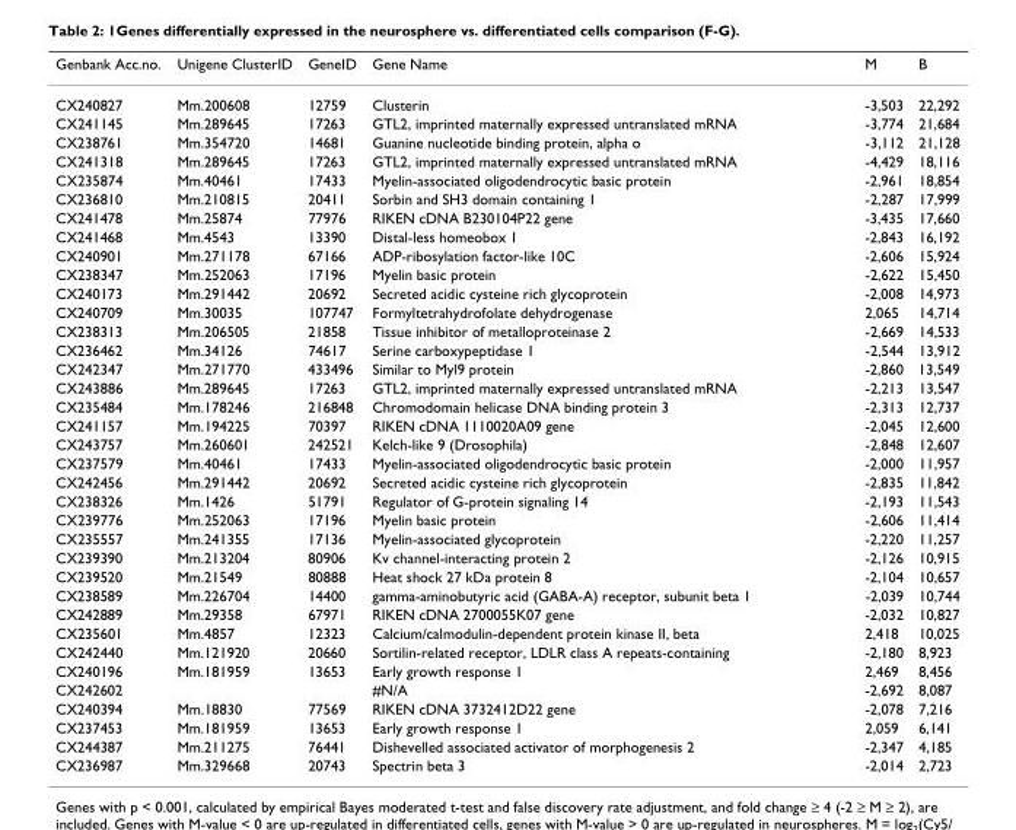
<table><thead><tr><td>Genbank Acc.no.</td><td>Unigene ClusterID</td><td>GeneID</td><td>Gene Name</td><td>M</td><td>B</td></tr></thead><tbody><tr><td>CX240827</td><td>Mm.200608</td><td>12759</td><td>Clusterin</td><td>-3,503</td><td>22,292</td></tr><tr><td>CX241145</td><td>Mm.289645</td><td>17263</td><td>GTL2, imprinted maternally expressed untranslated mRNA</td><td>-3,774</td><td>21,684</td></tr><tr><td>CX238761</td><td>Mm.354720</td><td>14681</td><td>Guanine nucleotide binding protein, alpha o</td><td>-3,112</td><td>21,128</td></tr><tr><td>CX241318</td><td>Mm.289645</td><td>17263</td><td>GTL2, imprinted maternally expressed untranslated mRNA</td><td>-4,429</td><td>18,116</td></tr><tr><td>CX235874</td><td>Mm.40461</td><td>17433</td><td>Myelin-associated oligodendrocytic basic protein</td><td>-2,961</td><td>18,854</td></tr><tr><td>CX236810</td><td>Mm.210815</td><td>20411</td><td>Sorbin and SH3 domain containing 1</td><td>-2,287</td><td>17,999</td></tr><tr><td>CX241478</td><td>Mm.25874</td><td>77976</td><td>RIKEN cDNA B230104P22 gene</td><td>-3,435</td><td>17,660</td></tr><tr><td>CX241468</td><td>Mm.4543</td><td>13390</td><td>Distal-less homeobox 1</td><td>-2,843</td><td>16,192</td></tr><tr><td>CX240901</td><td>Mm.271178</td><td>67166</td><td>ADP-ribosylation factor-like 10C</td><td>-2,606</td><td>15,924</td></tr><tr><td>CX238347</td><td>Mm.252063</td><td>17196</td><td>Myelin basic protein</td><td>-2,622</td><td>15,450</td></tr><tr><td>CX240173</td><td>Mm.291442</td><td>20692</td><td>Secreted acidic cysteine rich glycoprotein</td><td>-2,008</td><td>14,973</td></tr><tr><td>CX240709</td><td>Mm.30035</td><td>107747</td><td>Formyltetrahydrofolate dehydrogenase</td><td>2,065</td><td>14,714</td></tr><tr><td>CX238313</td><td>Mm.206505</td><td>21858</td><td>Tissue inhibitor of metalloproteinase 2</td><td>-2,669</td><td>14,533</td></tr><tr><td>CX236462</td><td>Mm.34126</td><td>74617</td><td>Serine carboxypeptidase 1</td><td>-2,544</td><td>13,912</td></tr><tr><td>CX242347</td><td>Mm.271770</td><td>433496</td><td>Similar to Myl9 protein</td><td>-2,860</td><td>13,549</td></tr><tr><td>CX243886</td><td>Mm.289645</td><td>17263</td><td>GTL2, imprinted maternally expressed untranslated mRNA</td><td>-2,213</td><td>13,547</td></tr><tr><td>CX235484</td><td>Mm.178246</td><td>216848</td><td>Chromodomain helicase DNA binding protein 3</td><td>-2,313</td><td>12,737</td></tr><tr><td>CX241157</td><td>Mm.194225</td><td>70397</td><td>RIKEN cDNA 1110020A09 gene</td><td>-2,045</td><td>12,600</td></tr><tr><td>CX243757</td><td>Mm.260601</td><td>242521</td><td>Kelch-like 9 (Drosophila)</td><td>-2,848</td><td>12,607</td></tr><tr><td>CX237579</td><td>Mm.40461</td><td>17433</td><td>Myelin-associated oligodendrocytic basic protein</td><td>-2,000</td><td>11,957</td></tr><tr><td>CX242456</td><td>Mm.291442</td><td>20692</td><td>Secreted acidic cysteine rich glycoprotein</td><td>-2,835</td><td>11,842</td></tr><tr><td>CX238326</td><td>Mm.1426</td><td>51791</td><td>Regulator of G-protein signaling 14</td><td>-2,193</td><td>11,543</td></tr><tr><td>CX239776</td><td>Mm.252063</td><td>17196</td><td>Myelin basic protein</td><td>-2,606</td><td>11,414</td></tr><tr><td>CX235557</td><td>Mm.241355</td><td>17136</td><td>Myelin-associated glycoprotein</td><td>-2,220</td><td>11,257</td></tr><tr><td>CX239390</td><td>Mm.213204</td><td>80906</td><td>Kv channel-interacting protein 2</td><td>-2,126</td><td>10,915</td></tr><tr><td>CX239520</td><td>Mm.21549</td><td>80888</td><td>Heat shock 27 kDa protein 8</td><td>-2,104</td><td>10,657</td></tr><tr><td>CX238589</td><td>Mm.226704</td><td>14400</td><td>gamma-aminobutyric acid (GABA-A) receptor, subunit beta 1</td><td>-2,039</td><td>10,744</td></tr><tr><td>CX242889</td><td>Mm.29358</td><td>67971</td><td>RIKEN cDNA 2700055K07 gene</td><td>-2,032</td><td>10,827</td></tr><tr><td>CX235601</td><td>Mm.4857</td><td>12323</td><td>Calcium/calmodulin-dependent protein kinase II, beta</td><td>2,418</td><td>10,025</td></tr><tr><td>CX242440</td><td>Mm.121920</td><td>20660</td><td>Sortilin-related receptor, LDLR class A repeats-containing</td><td>-2,180</td><td>8,923</td></tr><tr><td>CX240196</td><td>Mm.181959</td><td>13653</td><td>Early growth response 1</td><td>2,469</td><td>8,456</td></tr><tr><td>CX242602</td><td></td><td></td><td>#N/A</td><td>-2,692</td><td>8,087</td></tr><tr><td>CX240394</td><td>Mm.18830</td><td>77569</td><td>RIKEN cDNA 3732412D22 gene</td><td>-2,078</td><td>7,216</td></tr><tr><td>CX237453</td><td>Mm.181959</td><td>13653</td><td>Early growth response 1</td><td>2,059</td><td>6,141</td></tr><tr><td>CX244387</td><td>Mm.211275</td><td>76441</td><td>Dishevelled associated activator of morphogenesis 2</td><td>-2,347</td><td>4,185</td></tr><tr><td>CX236987</td><td>Mm.329668</td><td>20743</td><td>Spectrin beta 3</td><td>-2,014</td><td>2,723</td></tr></tbody></table>